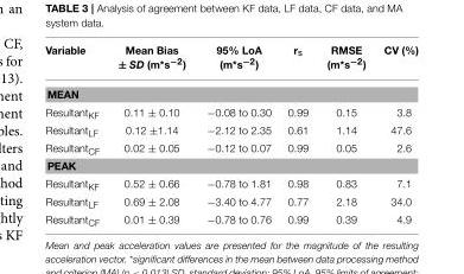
<table><thead><tr><td>Variable</td><td>Mean Bias ± SD (m*s<sup>−2</sup>)</td><td>95% LoA (m*s<sup>−2</sup>)</td><td>r<sub>s</sub></td><td>RMSE (m*s<sup>−2</sup>)</td><td>CV (%)</td></tr></thead><tbody><tr><td colspan="6">MEAN</td></tr><tr><td>Resultant<sub>KF</sub></td><td>0.11 ± 0.10</td><td>−0.08 to 0.30</td><td>0.99</td><td>0.15</td><td>3.8</td></tr><tr><td>Resultant<sub>LF</sub></td><td>0.12 ±1.14</td><td>−2.12 to 2.35</td><td>0.61</td><td>1.14</td><td>47.6</td></tr><tr><td>Resultant<sub>CF</sub></td><td>0.02 ± 0.05</td><td>−0.12 to 0.07</td><td>0.99</td><td>0.05</td><td>2.6</td></tr><tr><td colspan="6">PEAK</td></tr><tr><td>Resultant<sub>KF</sub></td><td>0.52 ± 0.66</td><td>−0.78 to 1.81</td><td>0.98</td><td>0.83</td><td>7.1</td></tr><tr><td>Resultant<sub>LF</sub></td><td>0.69 ± 2.08</td><td>−3.40 to 4.77</td><td>0.77</td><td>2.18</td><td>34.0</td></tr><tr><td>Resultant<sub>CF</sub></td><td>0.01 ± 0.39</td><td>−0.78 to 0.76</td><td>0.99</td><td>0.39</td><td>4.9</td></tr></tbody></table>